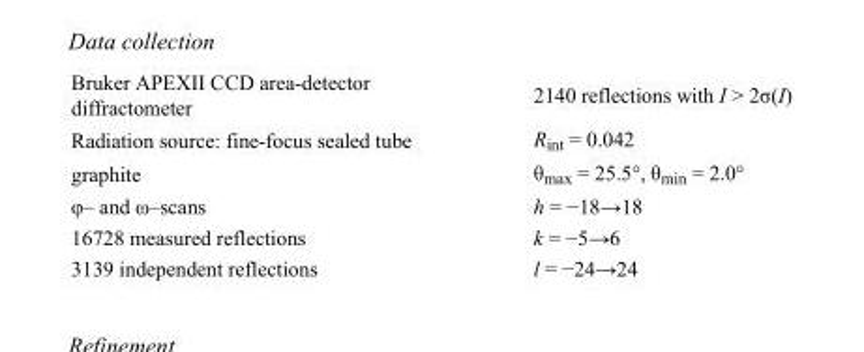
<table><tbody><tr><td>Bruker APEXII CCD area-detector diffractometer</td><td>2140 reflections with I &gt; 2σ(I)</td></tr><tr><td>Radiation source: fine-focus sealed tube</td><td>R<sub>int</sub> = 0.042</td></tr><tr><td>graphite</td><td>θ<sub>max</sub> = 25.5°, θ<sub>min</sub> = 2.0°</td></tr><tr><td>φ– and ω–scans</td><td>h = −18→18</td></tr><tr><td>16728 measured reflections</td><td>k = −5→6</td></tr><tr><td>3139 independent reflections</td><td>l = −24→24</td></tr></tbody></table>